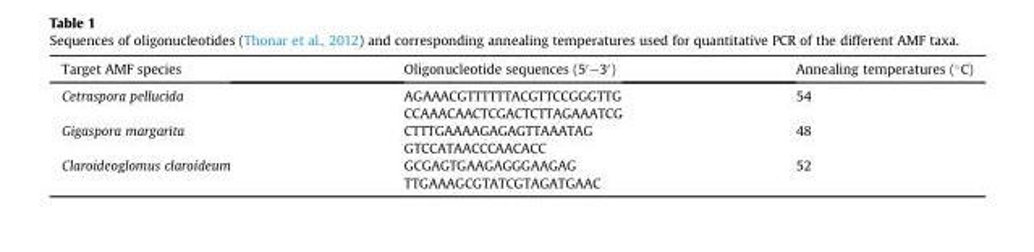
<table><thead><tr><td>Target AMF species</td><td>Oligonucleotide sequences (5′–3′)</td><td>Annealing temperatures (°C)</td></tr></thead><tbody><tr><td rowspan="2">Cetraspora pellucida</td><td>AGAAACGTTTTTTACGTTCCGGGTTG</td><td rowspan="2">54</td></tr><tr><td>CCAAACAACTCGACTCTTAGAAATCG</td></tr><tr><td rowspan="2">Gigaspora margarita</td><td>CTTTGAAAAGAGAGTTAAATAG</td><td rowspan="2">48</td></tr><tr><td>GTCCATAACCCAACACC</td></tr><tr><td rowspan="2">Claroideoglomus claroideum</td><td>GCGAGTGAAGAGGGAAGAG</td><td rowspan="2">52</td></tr><tr><td>TTGAAAGCGTATCGTAGATGAAC</td></tr></tbody></table>